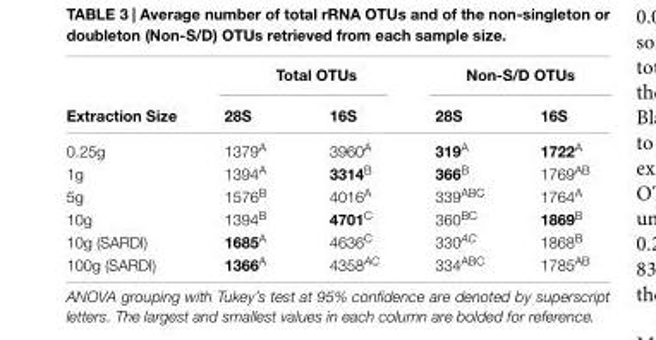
<table><thead><tr><td rowspan="2">Extraction Size</td><td colspan="2">Total OTUs</td><td colspan="2">Non-S/D OTUs</td></tr><tr><td>28S</td><td>16S</td><td>28S</td><td>16S</td></tr></thead><tbody><tr><td>0.25g</td><td>1379A</td><td>3960A</td><td>319A</td><td>1722A</td></tr><tr><td>1g</td><td>1394A</td><td>3314B</td><td>366B</td><td>1769AB</td></tr><tr><td>5g</td><td>1576B</td><td>4016A</td><td>339ABC</td><td>1764A</td></tr><tr><td>10g</td><td>1394B</td><td>4701C</td><td>360BC</td><td>1869B</td></tr><tr><td>10g (SARDI)</td><td>1685A</td><td>4636C</td><td>330AC</td><td>1868B</td></tr><tr><td>100g (SARDI)</td><td>1366A</td><td>4358AC</td><td>334ABC</td><td>1785AB</td></tr></tbody></table>